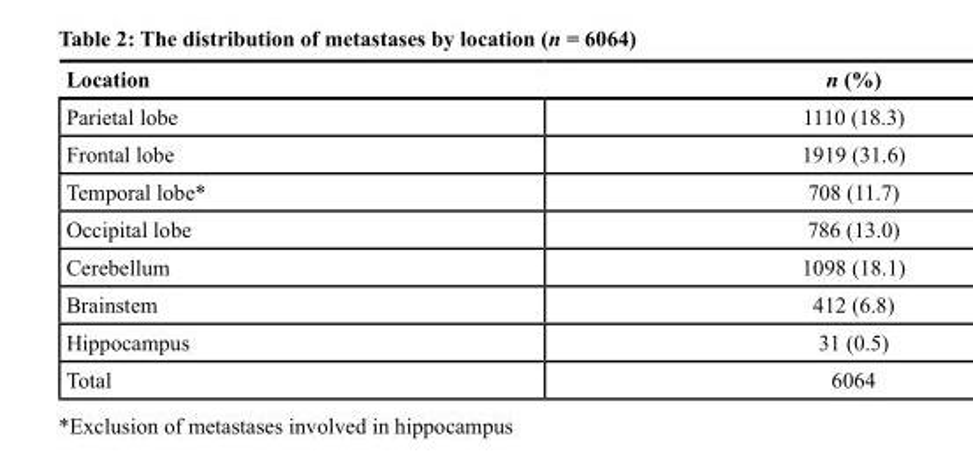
<table><thead><tr><td>Location</td><td>n (%)</td></tr></thead><tbody><tr><td>Parietal lobe</td><td>1110 (18.3)</td></tr><tr><td>Frontal lobe</td><td>1919 (31.6)</td></tr><tr><td>Temporal lobe*</td><td>708 (11.7)</td></tr><tr><td>Occipital lobe</td><td>786 (13.0)</td></tr><tr><td>Cerebellum</td><td>1098 (18.1)</td></tr><tr><td>Brainstem</td><td>412 (6.8)</td></tr><tr><td>Hippocampus</td><td>31 (0.5)</td></tr><tr><td>Total</td><td>6064</td></tr></tbody></table>